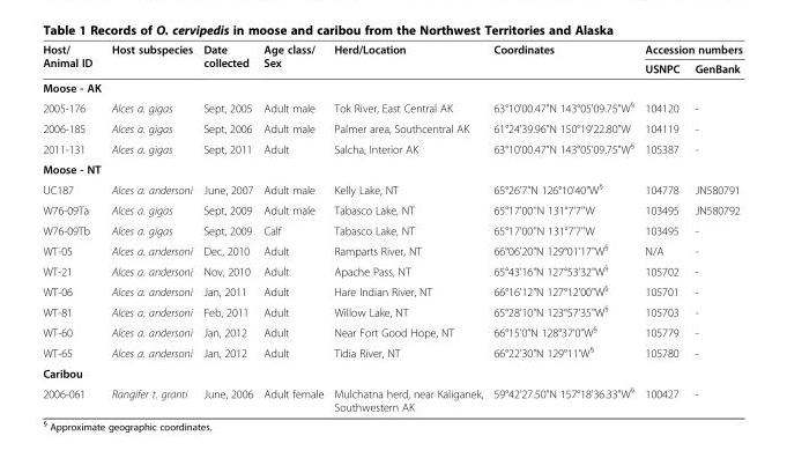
<table><thead><tr><td rowspan="2">Host/ Animal ID</td><td rowspan="2">Host subspecies</td><td rowspan="2">Date collected</td><td rowspan="2">Age class/ Sex</td><td rowspan="2">Herd/Location</td><td rowspan="2">Coordinates</td><td colspan="2">Accession numbers</td></tr><tr><td>USNPC</td><td>GenBank</td></tr></thead><tbody><tr><td colspan="8">Moose - AK</td></tr><tr><td>2005-176</td><td>Alces a. gigas</td><td>Sept, 2005</td><td>Adult male</td><td>Tok River, East Central AK</td><td>63°10&#x27;00.47&quot;N 143°05&#x27;09.75&quot;W<sup>§</sup></td><td>104120</td><td>-</td></tr><tr><td>2006-185</td><td>Alces a. gigas</td><td>Sept, 2006</td><td>Adult male</td><td>Palmer area, Southcentral AK</td><td>61°24&#x27;39.96&quot;N 150°19&#x27;22.80&quot;W</td><td>104119</td><td>-</td></tr><tr><td>2011-131</td><td>Alces a. gigas</td><td>Sept, 2011</td><td>Adult</td><td>Salcha, Interior AK</td><td>63°10&#x27;00.47&quot;N 143°05&#x27;09.75&quot;W<sup>§</sup></td><td>105387</td><td>-</td></tr><tr><td colspan="8">Moose - NT</td></tr><tr><td>UC187</td><td>Alces a. andersoni</td><td>June, 2007</td><td>Adult male</td><td>Kelly Lake, NT</td><td>65°26&#x27;7&quot;N 126°10&#x27;40&quot;W<sup>§</sup></td><td>104778</td><td>JN580791</td></tr><tr><td>W76-09Ta</td><td>Alces a. gigas</td><td>Sept, 2009</td><td>Adult male</td><td>Tabasco Lake, NT</td><td>65°17&#x27;00&#x27;&#x27;N 131°7&#x27;7&#x27;&#x27;W</td><td>103495</td><td>JN580792</td></tr><tr><td>W76-09Tb</td><td>Alces a. gigas</td><td>Sept, 2009</td><td>Calf</td><td>Tabasco Lake, NT</td><td>65°17&#x27;00&#x27;&#x27;N 131°7&#x27;7&#x27;&#x27;W</td><td>103495</td><td>-</td></tr><tr><td>WT-05</td><td>Alces a. andersoni</td><td>Dec, 2010</td><td>Adult</td><td>Ramparts River, NT</td><td>66°06&#x27;20&quot;N 129°01&#x27;17&quot;W<sup>§</sup></td><td>N/A</td><td>-</td></tr><tr><td>WT-21</td><td>Alces a. andersoni</td><td>Nov, 2010</td><td>Adult</td><td>Apache Pass, NT</td><td>65°43&#x27;16&quot;N 127°53&#x27;32&quot;W<sup>§</sup></td><td>105702</td><td>-</td></tr><tr><td>WT-06</td><td>Alces a. andersoni</td><td>Jan, 2011</td><td>Adult</td><td>Hare Indian River, NT</td><td>66°16&#x27;12&quot;N 127°12&#x27;00&quot;W<sup>§</sup></td><td>105701</td><td>-</td></tr><tr><td>WT-81</td><td>Alces a. andersoni</td><td>Feb, 2011</td><td>Adult</td><td>Willow Lake, NT</td><td>65°28&#x27;10&quot;N 123°57&#x27;35&quot;W<sup>§</sup></td><td>105703</td><td>-</td></tr><tr><td>WT-60</td><td>Alces a. andersoni</td><td>Jan, 2012</td><td>Adult</td><td>Near Fort Good Hope, NT</td><td>66°15&#x27;0&quot;N 128°37&#x27;0&quot;W<sup>§</sup></td><td>105779</td><td>-</td></tr><tr><td>WT-65</td><td>Alces a. andersoni</td><td>Jan, 2012</td><td>Adult</td><td>Tidia River, NT</td><td>66°22&#x27;30&quot;N 129°11&#x27;W<sup>§</sup></td><td>105780</td><td>-</td></tr><tr><td colspan="8">Caribou</td></tr><tr><td>2006-061</td><td>Rangifer t. granti</td><td>June, 2006</td><td>Adult female</td><td>Mulchatna herd, near Kaliganek, Southwestern AK</td><td>59°42&#x27;27.50&quot;N 157°18&#x27;36.33&quot;W<sup>§</sup></td><td>100427</td><td>-</td></tr></tbody></table>